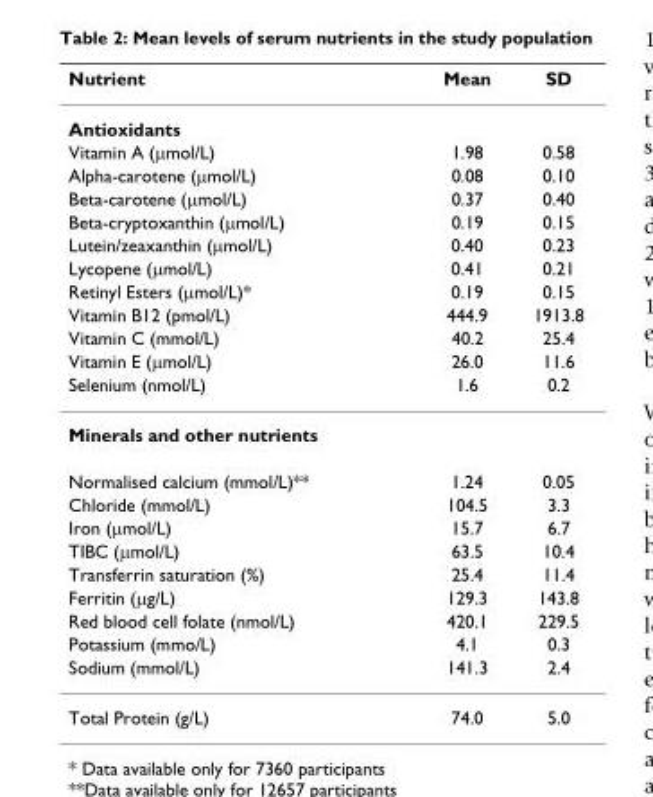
<table><thead><tr><td>Nutrient</td><td>Mean</td><td>SD</td></tr></thead><tbody><tr><td colspan="3">Antioxidants</td></tr><tr><td>Vitamin A (μmol/L)</td><td>1.98</td><td>0.58</td></tr><tr><td>Alpha-carotene (μmol/L)</td><td>0.08</td><td>0.10</td></tr><tr><td>Beta-carotene (μmol/L)</td><td>0.37</td><td>0.40</td></tr><tr><td>Beta-cryptoxanthin (μmol/L)</td><td>0.19</td><td>0.15</td></tr><tr><td>Lutein/zeaxanthin (μmol/L)</td><td>0.40</td><td>0.23</td></tr><tr><td>Lycopene (μmol/L)</td><td>0.41</td><td>0.21</td></tr><tr><td>Retinyl Esters (μmol/L)*</td><td>0.19</td><td>0.15</td></tr><tr><td>Vitamin B12 (pmol/L)</td><td>444.9</td><td>1913.8</td></tr><tr><td>Vitamin C (mmol/L)</td><td>40.2</td><td>25.4</td></tr><tr><td>Vitamin E (μmol/L)</td><td>26.0</td><td>11.6</td></tr><tr><td>Selenium (nmol/L)</td><td>1.6</td><td>0.2</td></tr><tr><td colspan="3">Minerals and other nutrients</td></tr><tr><td>Normalised calcium (mmol/L)**</td><td>1.24</td><td>0.05</td></tr><tr><td>Chloride (mmol/L)</td><td>104.5</td><td>3.3</td></tr><tr><td>Iron (μmol/L)</td><td>15.7</td><td>6.7</td></tr><tr><td>TIBC (μmol/L)</td><td>63.5</td><td>10.4</td></tr><tr><td>Transferrin saturation (%)</td><td>25.4</td><td>11.4</td></tr><tr><td>Ferritin (μg/L)</td><td>129.3</td><td>143.8</td></tr><tr><td>Red blood cell folate (nmol/L)</td><td>420.1</td><td>229.5</td></tr><tr><td>Potassium (mmo/L)</td><td>4.1</td><td>0.3</td></tr><tr><td>Sodium (mmol/L)</td><td>141.3</td><td>2.4</td></tr><tr><td>Total Protein (g/L)</td><td>74.0</td><td>5.0</td></tr></tbody></table>